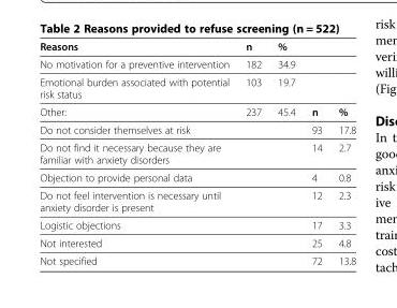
<table><thead><tr><td>Reasons</td><td>n</td><td>%</td><td></td><td></td></tr></thead><tbody><tr><td>No motivation for a preventive intervention</td><td>182</td><td>34.9</td><td></td><td></td></tr><tr><td>Emotional burden associated with potential risk status</td><td>103</td><td>19.7</td><td></td><td></td></tr><tr><td>Other:</td><td>237</td><td>45.4</td><td>n</td><td>%</td></tr><tr><td>Do not consider themselves at risk</td><td></td><td></td><td>93</td><td>17.8</td></tr><tr><td>Do not find it necessary because they are familiar with anxiety disorders</td><td></td><td></td><td>14</td><td>2.7</td></tr><tr><td>Objection to provide personal data</td><td></td><td></td><td>4</td><td>0.8</td></tr><tr><td>Do not feel intervention is necessary until anxiety disorder is present</td><td></td><td></td><td>12</td><td>2.3</td></tr><tr><td>Logistic objections</td><td></td><td></td><td>17</td><td>3.3</td></tr><tr><td>Not interested</td><td></td><td></td><td>25</td><td>4.8</td></tr><tr><td>Not specified</td><td></td><td></td><td>72</td><td>13.8</td></tr></tbody></table>